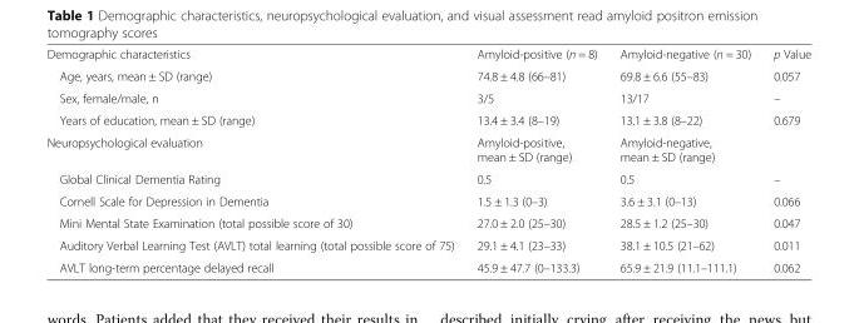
<table><tbody><tr><td>Demographic characteristics</td><td>Amyloid-positive (n = 8)</td><td>Amyloid-negative (n = 30)</td><td>p Value</td></tr><tr><td>Age, years, mean ± SD (range)</td><td>74.8 ± 4.8 (66–81)</td><td>69.8 ± 6.6 (55–83)</td><td>0.057</td></tr><tr><td>Sex, female/male, n</td><td>3/5</td><td>13/17</td><td>–</td></tr><tr><td>Years of education, mean ± SD (range)</td><td>13.4 ± 3.4 (8–19)</td><td>13.1 ± 3.8 (8–22)</td><td>0.679</td></tr><tr><td>Neuropsychological evaluation</td><td>Amyloid-positive, mean ± SD (range)</td><td>Amyloid-negative, mean ± SD (range)</td><td></td></tr><tr><td>Global Clinical Dementia Rating</td><td>0.5</td><td>0.5</td><td>–</td></tr><tr><td>Cornell Scale for Depression in Dementia</td><td>1.5 ± 1.3 (0–3)</td><td>3.6 ± 3.1 (0–13)</td><td>0.066</td></tr><tr><td>Mini Mental State Examination (total possible score of 30)</td><td>27.0 ± 2.0 (25–30)</td><td>28.5 ± 1.2 (25–30)</td><td>0.047</td></tr><tr><td>Auditory Verbal Learning Test (AVLT) total learning (total possible score of 75)</td><td>29.1 ± 4.1 (23–33)</td><td>38.1 ± 10.5 (21–62)</td><td>0.011</td></tr><tr><td>AVLT long-term percentage delayed recall</td><td>45.9 ± 47.7 (0–133.3)</td><td>65.9 ± 21.9 (11.1–111.1)</td><td>0.062</td></tr></tbody></table>